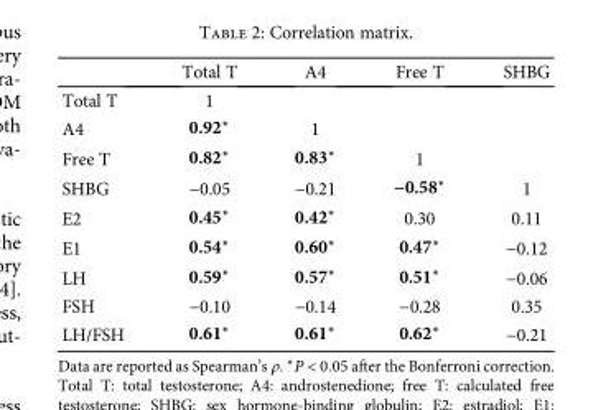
<table><thead><tr><td></td><td>Total T</td><td>A4</td><td>Free T</td><td>SHBG</td></tr></thead><tbody><tr><td>Total T</td><td>1</td><td></td><td></td><td></td></tr><tr><td>A4</td><td>0.92∗</td><td>1</td><td></td><td></td></tr><tr><td>Free T</td><td>0.82∗</td><td>0.83∗</td><td>1</td><td></td></tr><tr><td>SHBG</td><td>−0.05</td><td>−0.21</td><td>−0.58∗</td><td>1</td></tr><tr><td>E2</td><td>0.45∗</td><td>0.42∗</td><td>0.30</td><td>0.11</td></tr><tr><td>E1</td><td>0.54∗</td><td>0.60∗</td><td>0.47∗</td><td>−0.12</td></tr><tr><td>LH</td><td>0.59∗</td><td>0.57∗</td><td>0.51∗</td><td>−0.06</td></tr><tr><td>FSH</td><td>−0.10</td><td>−0.14</td><td>−0.28</td><td>0.35</td></tr><tr><td>LH/FSH</td><td>0.61∗</td><td>0.61∗</td><td>0.62∗</td><td>−0.21</td></tr></tbody></table>